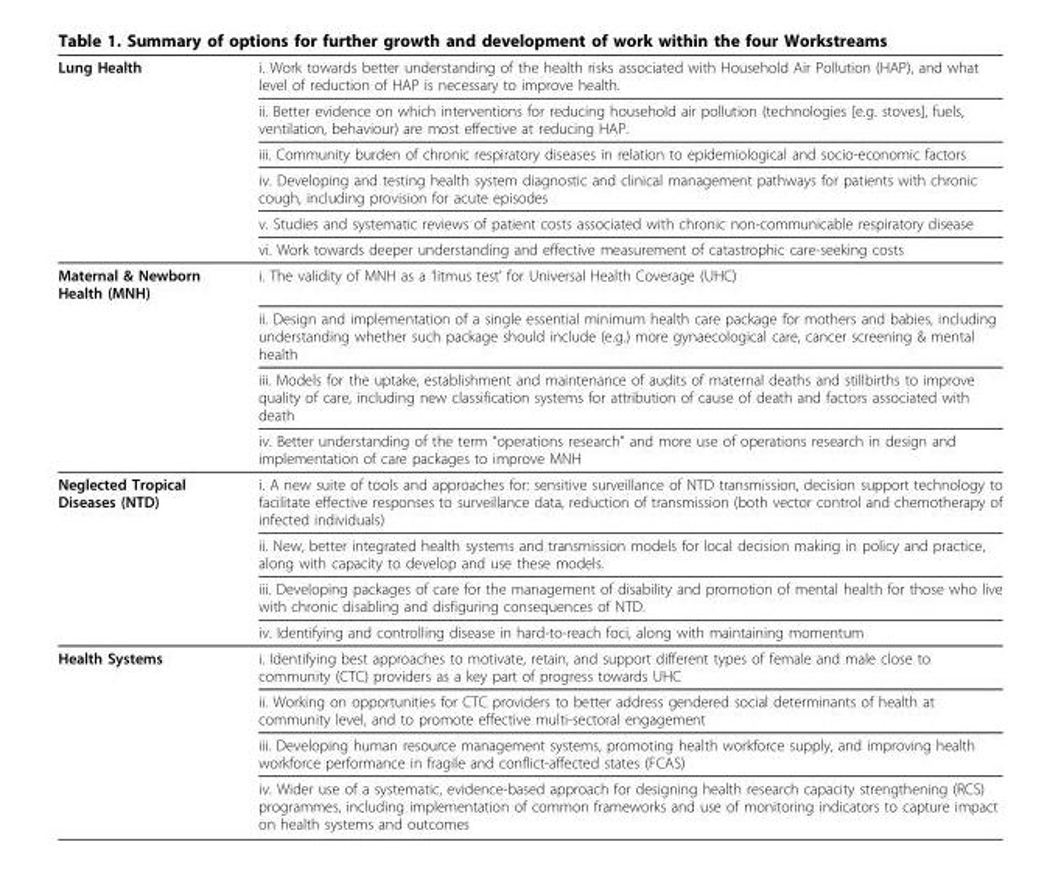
<table><thead><tr><td rowspan="6">Lung Health</td><td rowspan="6">i. Work towards better understanding of the health risks associated with Household Air Pollution (HAP), and what level of reduction of HAP is necessary to improve health. ii. Better evidence on which interventions for reducing household air pollution (technologies [e.g. stoves], fuels, ventilation, behaviour) are most effective at reducing HAP. iii. Community burden of chronic respiratory diseases in relation to epidemiological and socio-economic factors iv. Developing and testing health system diagnostic and clinical management pathways for patients with chronic cough, including provision for acute episodes v. Studies and systematic reviews of patient costs associated with chronic non-communicable respiratory disease vi. Work towards deeper understanding and effective measurement of catastrophic care-seeking costs</td></tr><tr></tr><tr></tr><tr></tr><tr></tr><tr></tr></thead><tbody><tr><td rowspan="4">Maternal &amp; Newborn Health (MNH)</td><td>i. The validity of MNH as a ‘litmus test’ for Universal Health Coverage (UHC)</td></tr><tr><td>ii. Design and implementation of a single essential minimum health care package for mothers and babies, including understanding whether such package should include (e.g.) more gynaecological care, cancer screening &amp; mental health</td></tr><tr><td>iii. Models for the uptake, establishment and maintenance of audits of maternal deaths and stillbirths to improve quality of care, including new classification systems for attribution of cause of death and factors associated with death</td></tr><tr><td>iv. Better understanding of the term “operations research” and more use of operations research in design and implementation of care packages to improve MNH</td></tr><tr><td rowspan="4">Neglected Tropical Diseases (NTD)</td><td>i. A new suite of tools and approaches for: sensitive surveillance of NTD transmission, decision support technology to facilitate effective responses to surveillance data, reduction of transmission (both vector control and chemotherapy of infected individuals)</td></tr><tr><td>ii. New, better integrated health systems and transmission models for local decision making in policy and practice, along with capacity to develop and use these models.</td></tr><tr><td>iii. Developing packages of care for the management of disability and promotion of mental health for those who live with chronic disabling and disfiguring consequences of NTD.</td></tr><tr><td>iv. Identifying and controlling disease in hard-to-reach foci, along with maintaining momentum</td></tr><tr><td rowspan="4">Health Systems</td><td>i. Identifying best approaches to motivate, retain, and support different types of female and male close to community (CTC) providers as a key part of progress towards UHC</td></tr><tr><td>ii. Working on opportunities for CTC providers to better address gendered social determinants of health at community level, and to promote effective multi-sectoral engagement</td></tr><tr><td>iii. Developing human resource management systems, promoting health workforce supply, and improving health workforce performance in fragile and conflict-affected states (FCAS)</td></tr><tr><td>iv. Wider use of a systematic, evidence-based approach for designing health research capacity strengthening (RCS) programmes, including implementation of common frameworks and use of monitoring indicators to capture impact on health systems and outcomes</td></tr></tbody></table>